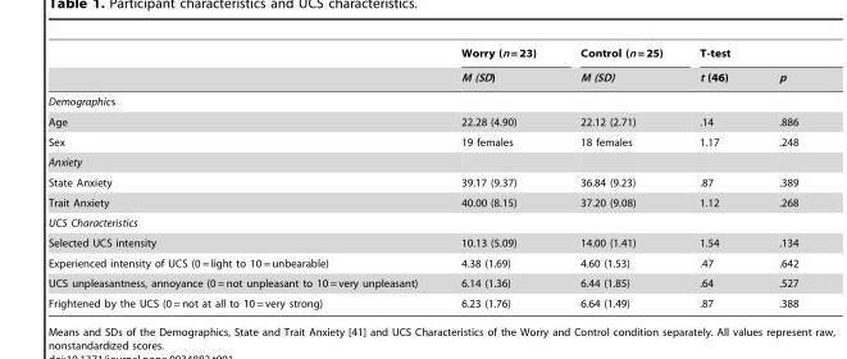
<table><thead><tr><td rowspan="2"></td><td rowspan="2">Worry (n = 23) M (SD)</td><td rowspan="2">Control (n = 25) M (SD)</td><td colspan="2">T-test</td></tr><tr><td>t (46)</td><td>p</td></tr></thead><tbody><tr><td colspan="5">Demographics</td></tr><tr><td>Age</td><td>22.28 (4.90)</td><td>22.12 (2.71)</td><td>.14</td><td>.886</td></tr><tr><td>Sex</td><td>19 females</td><td>18 females</td><td>1.17</td><td>.248</td></tr><tr><td colspan="5">Anxiety</td></tr><tr><td>State Anxiety</td><td>39.17 (9.37)</td><td>36.84 (9.23)</td><td>.87</td><td>.389</td></tr><tr><td>Trait Anxiety</td><td>40.00 (8.15)</td><td>37.20 (9.08)</td><td>1.12</td><td>.268</td></tr><tr><td colspan="5">UCS Characteristics</td></tr><tr><td>Selected UCS intensity</td><td>10.13 (5.09)</td><td>14.00 (1.41)</td><td>1.54</td><td>.134</td></tr><tr><td>Experienced intensity of UCS (0 = light to 10 = unbearable)</td><td>4.38 (1.69)</td><td>4.60 (1.53)</td><td>.47</td><td>.642</td></tr><tr><td>UCS unpleasantness, annoyance (0 = not unpleasant to 10 = very unpleasant)</td><td>6.14 (1.36)</td><td>6.44 (1.85)</td><td>.64</td><td>.527</td></tr><tr><td>Frightened by the UCS (0 = not at all to 10 = very strong)</td><td>6.23 (1.76)</td><td>6.64 (1.49)</td><td>.87</td><td>.388</td></tr></tbody></table>